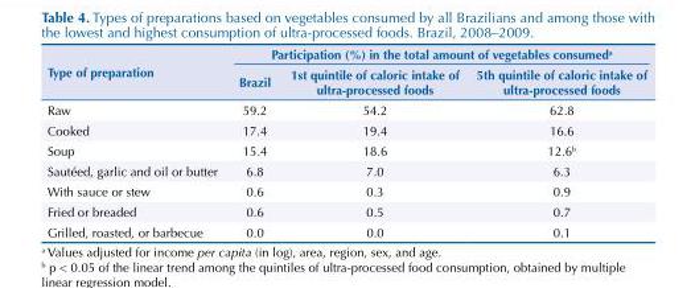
<table><thead><tr><td rowspan="2">Type of preparation</td><td colspan="3">Participation (%) in the total amount of vegetables consumed<sup>a</sup></td></tr><tr><td>Brazil</td><td>1st quintile of caloric intake of ultra-processed foods</td><td>5th quintile of caloric intake of ultra-processed foods</td></tr></thead><tbody><tr><td>Raw</td><td>59.2</td><td>54.2</td><td>62.8</td></tr><tr><td>Cooked</td><td>17.4</td><td>19.4</td><td>16.6</td></tr><tr><td>Soup</td><td>15.4</td><td>18.6</td><td>12.6<sup>b</sup></td></tr><tr><td>Sautéed, garlic and oil or butter</td><td>6.8</td><td>7.0</td><td>6.3</td></tr><tr><td>With sauce or stew</td><td>0.6</td><td>0.3</td><td>0.9</td></tr><tr><td>Fried or breaded</td><td>0.6</td><td>0.5</td><td>0.7</td></tr><tr><td>Grilled, roasted, or barbecue</td><td>0.0</td><td>0.0</td><td>0.1</td></tr></tbody></table>